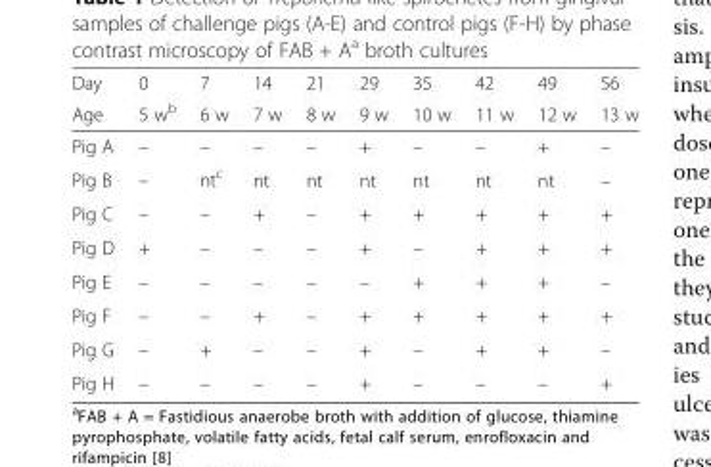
<table><thead><tr><td rowspan="2">Day Age</td><td rowspan="2">0 5 w<sup>b</sup></td><td rowspan="2">7 6 w</td><td rowspan="2">14 7 w</td><td rowspan="2">21 8 w</td><td rowspan="2">29 9 w</td><td rowspan="2">35 10 w</td><td rowspan="2">42 11 w</td><td rowspan="2">49 12 w</td><td rowspan="2">56 13 w</td></tr><tr></tr></thead><tbody><tr><td>Pig A</td><td>–</td><td>–</td><td>–</td><td>–</td><td>+</td><td>–</td><td>–</td><td>+</td><td>–</td></tr><tr><td>Pig B</td><td>–</td><td>nt<sup>c</sup></td><td>nt</td><td>nt</td><td>nt</td><td>nt</td><td>nt</td><td>nt</td><td>–</td></tr><tr><td>Pig C</td><td>–</td><td>–</td><td>+</td><td>–</td><td>+</td><td>+</td><td>+</td><td>+</td><td>+</td></tr><tr><td>Pig D</td><td>+</td><td>–</td><td>–</td><td>–</td><td>+</td><td>–</td><td>+</td><td>+</td><td>+</td></tr><tr><td>Pig E</td><td>–</td><td>–</td><td>–</td><td>–</td><td>–</td><td>+</td><td>+</td><td>+</td><td>–</td></tr><tr><td>Pig F</td><td>–</td><td>–</td><td>+</td><td>–</td><td>+</td><td>+</td><td>+</td><td>+</td><td>+</td></tr><tr><td>Pig G</td><td>–</td><td>+</td><td>–</td><td>–</td><td>+</td><td>–</td><td>+</td><td>+</td><td>–</td></tr><tr><td>Pig H</td><td>–</td><td>–</td><td>–</td><td>–</td><td>+</td><td>–</td><td>–</td><td>–</td><td>+</td></tr></tbody></table>